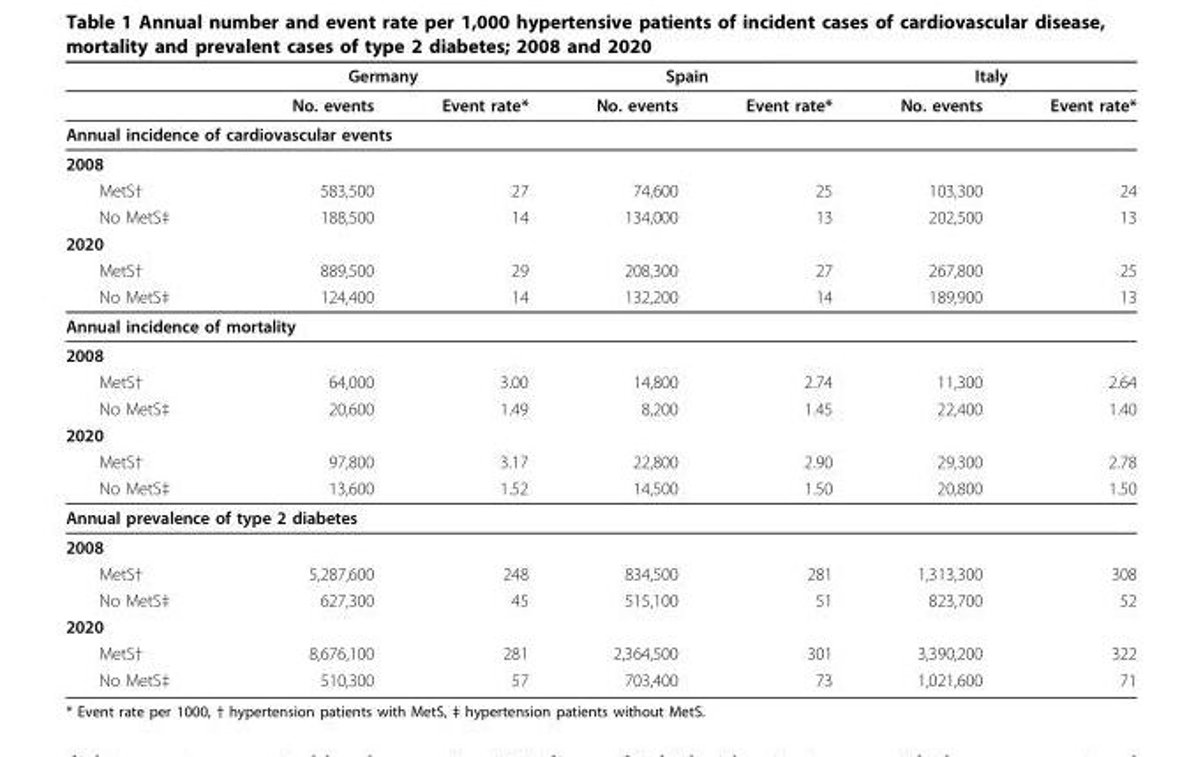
<table><thead><tr><td rowspan="2"></td><td colspan="2">Germany</td><td colspan="2">Spain</td><td colspan="2">Italy</td></tr><tr><td>No. events</td><td>Event rate*</td><td>No. events</td><td>Event rate*</td><td>No. events</td><td>Event rate*</td></tr></thead><tbody><tr><td colspan="7">Annual incidence of cardiovascular events</td></tr><tr><td colspan="7">2008</td></tr><tr><td>MetS†</td><td>583,500</td><td>27</td><td>74,600</td><td>25</td><td>103,300</td><td>24</td></tr><tr><td>No MetS‡</td><td>188,500</td><td>14</td><td>134,000</td><td>13</td><td>202,500</td><td>13</td></tr><tr><td colspan="7">2020</td></tr><tr><td>MetS†</td><td>889,500</td><td>29</td><td>208,300</td><td>27</td><td>267,800</td><td>25</td></tr><tr><td>No MetS‡</td><td>124,400</td><td>14</td><td>132,200</td><td>14</td><td>189,900</td><td>13</td></tr><tr><td colspan="7">Annual incidence of mortality</td></tr><tr><td colspan="7">2008</td></tr><tr><td>MetS†</td><td>64,000</td><td>3.00</td><td>14,800</td><td>2.74</td><td>11,300</td><td>2.64</td></tr><tr><td>No MetS‡</td><td>20,600</td><td>1.49</td><td>8,200</td><td>1.45</td><td>22,400</td><td>1.40</td></tr><tr><td colspan="7">2020</td></tr><tr><td>MetS†</td><td>97,800</td><td>3.17</td><td>22,800</td><td>2.90</td><td>29,300</td><td>2.78</td></tr><tr><td>No MetS‡</td><td>13,600</td><td>1.52</td><td>14,500</td><td>1.50</td><td>20,800</td><td>1.50</td></tr><tr><td colspan="7">Annual prevalence of type 2 diabetes</td></tr><tr><td colspan="7">2008</td></tr><tr><td>MetS†</td><td>5,287,600</td><td>248</td><td>834,500</td><td>281</td><td>1,313,300</td><td>308</td></tr><tr><td>No MetS‡</td><td>627,300</td><td>45</td><td>515,100</td><td>51</td><td>823,700</td><td>52</td></tr><tr><td colspan="7">2020</td></tr><tr><td>MetS†</td><td>8,676,100</td><td>281</td><td>2,364,500</td><td>301</td><td>3,390,200</td><td>322</td></tr><tr><td>No MetS‡</td><td>510,300</td><td>57</td><td>703,400</td><td>73</td><td>1,021,600</td><td>71</td></tr></tbody></table>